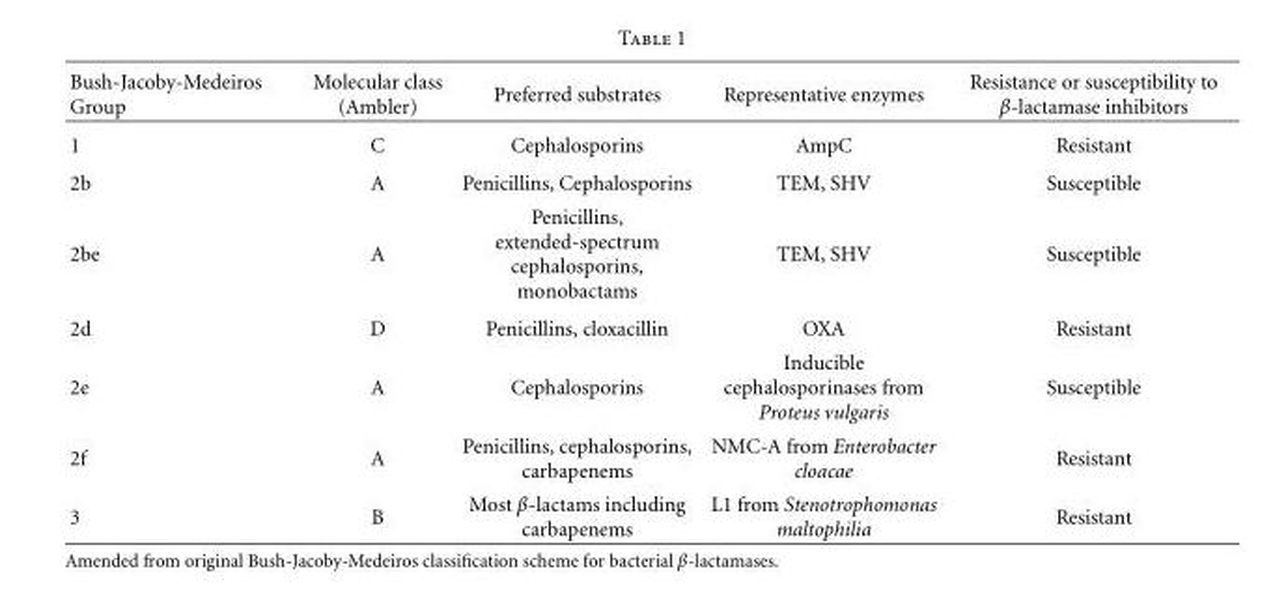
<table><thead><tr><td>Bush-Jacoby-Medeiros Group</td><td>Molecular class (Ambler)</td><td>Preferred substrates</td><td>Representative enzymes</td><td>Resistance or susceptibility to β-lactamase inhibitors</td></tr></thead><tbody><tr><td>1</td><td>C</td><td>Cephalosporins</td><td>AmpC</td><td>Resistant</td></tr><tr><td>2b</td><td>A</td><td>Penicillins, Cephalosporins</td><td>TEM, SHV</td><td>Susceptible</td></tr><tr><td>2be</td><td>A</td><td>Penicillins, extended-spectrum cephalosporins, monobactams</td><td>TEM, SHV</td><td>Susceptible</td></tr><tr><td>2d</td><td>D</td><td>Penicillins, cloxacillin</td><td>OXA</td><td>Resistant</td></tr><tr><td>2e</td><td>A</td><td>Cephalosporins</td><td>Inducible cephalosporinases from Proteus vulgaris</td><td>Susceptible</td></tr><tr><td>2f</td><td>A</td><td>Penicillins, cephalosporins, carbapenems</td><td>NMC-A from Enterobacter cloacae</td><td>Resistant</td></tr><tr><td>3</td><td>B</td><td>Most β-lactams including carbapenems</td><td>L1 from Stenotrophomonas maltophilia</td><td>Resistant</td></tr></tbody></table>